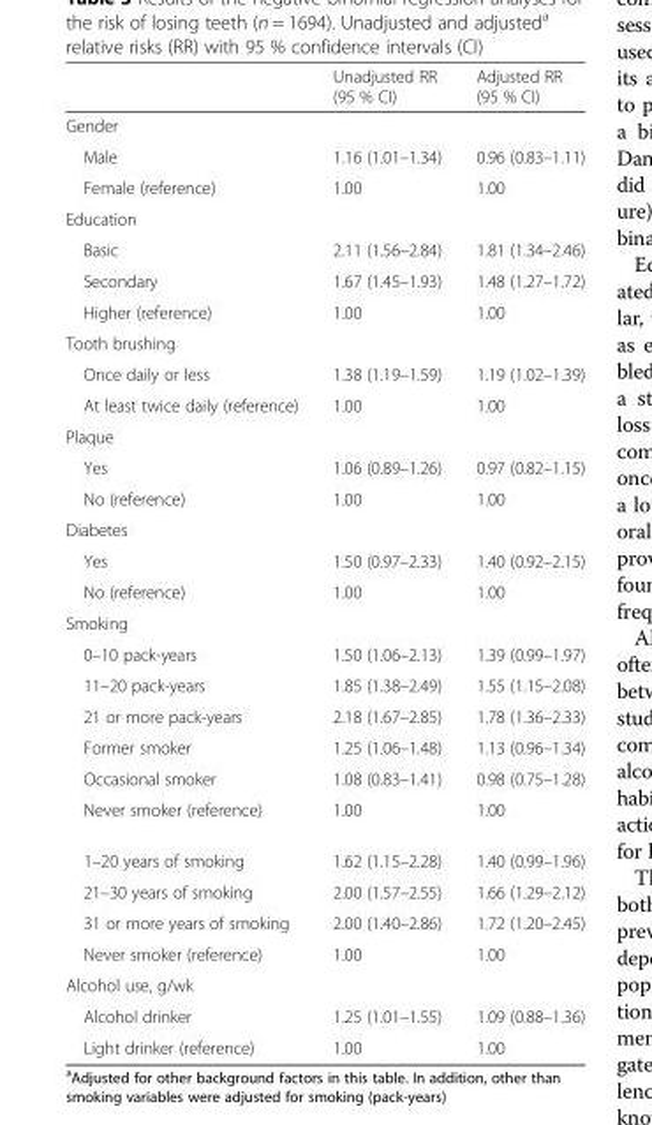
<table><thead><tr><td></td><td>Unadjusted RR (95 % CI)</td><td>Adjusted RR (95 % CI)</td></tr></thead><tbody><tr><td colspan="3">Gender</td></tr><tr><td>Male</td><td>1.16 (1.01–1.34)</td><td>0.96 (0.83–1.11)</td></tr><tr><td>Female (reference)</td><td>1.00</td><td>1.00</td></tr><tr><td colspan="3">Education</td></tr><tr><td>Basic</td><td>2.11 (1.56–2.84)</td><td>1.81 (1.34–2.46)</td></tr><tr><td>Secondary</td><td>1.67 (1.45–1.93)</td><td>1.48 (1.27–1.72)</td></tr><tr><td>Higher (reference)</td><td>1.00</td><td>1.00</td></tr><tr><td colspan="3">Tooth brushing</td></tr><tr><td>Once daily or less</td><td>1.38 (1.19–1.59)</td><td>1.19 (1.02–1.39)</td></tr><tr><td>At least twice daily (reference)</td><td>1.00</td><td>1.00</td></tr><tr><td colspan="3">Plaque</td></tr><tr><td>Yes</td><td>1.06 (0.89–1.26)</td><td>0.97 (0.82–1.15)</td></tr><tr><td>No (reference)</td><td>1.00</td><td>1.00</td></tr><tr><td colspan="3">Diabetes</td></tr><tr><td>Yes</td><td>1.50 (0.97–2.33)</td><td>1.40 (0.92–2.15)</td></tr><tr><td>No (reference)</td><td>1.00</td><td>1.00</td></tr><tr><td colspan="3">Smoking</td></tr><tr><td>0–10 pack-years</td><td>1.50 (1.06–2.13)</td><td>1.39 (0.99–1.97)</td></tr><tr><td>11–20 pack-years</td><td>1.85 (1.38–2.49)</td><td>1.55 (1.15–2.08)</td></tr><tr><td>21 or more pack-years</td><td>2.18 (1.67–2.85)</td><td>1.78 (1.36–2.33)</td></tr><tr><td>Former smoker</td><td>1.25 (1.06–1.48)</td><td>1.13 (0.96–1.34)</td></tr><tr><td>Occasional smoker</td><td>1.08 (0.83–1.41)</td><td>0.98 (0.75–1.28)</td></tr><tr><td>Never smoker (reference)</td><td>1.00</td><td>1.00</td></tr><tr><td>1–20 years of smoking</td><td>1.62 (1.15–2.28)</td><td>1.40 (0.99–1.96)</td></tr><tr><td>21–30 years of smoking</td><td>2.00 (1.57–2.55)</td><td>1.66 (1.29–2.12)</td></tr><tr><td>31 or more years of smoking</td><td>2.00 (1.40–2.86)</td><td>1.72 (1.20–2.45)</td></tr><tr><td>Never smoker (reference)</td><td>1.00</td><td>1.00</td></tr><tr><td colspan="3">Alcohol use, g/wk</td></tr><tr><td>Alcohol drinker</td><td>1.25 (1.01–1.55)</td><td>1.09 (0.88–1.36)</td></tr><tr><td>Light drinker (reference)</td><td>1.00</td><td>1.00</td></tr></tbody></table>